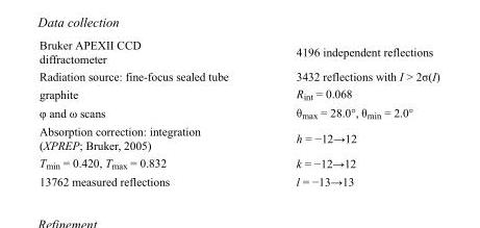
<table><tbody><tr><td>Bruker APEXII CCD diffractometer</td><td>4196 independent reflections</td></tr><tr><td>Radiation source: fine-focus sealed tube</td><td>3432 reflections with I &gt; 2σ(I)</td></tr><tr><td>graphite</td><td>R<sub>int</sub> = 0.068</td></tr><tr><td>φ and ω scans</td><td>θ<sub>max</sub> = 28.0°, θ<sub>min</sub> = 2.0°</td></tr><tr><td>Absorption correction: integration (XPREP; Bruker, 2005)</td><td>h = −12→12</td></tr><tr><td>T<sub>min</sub> = 0.420, T<sub>max</sub> = 0.832</td><td>k = −12→12</td></tr><tr><td>13762 measured reflections</td><td>l = −13→13</td></tr></tbody></table>